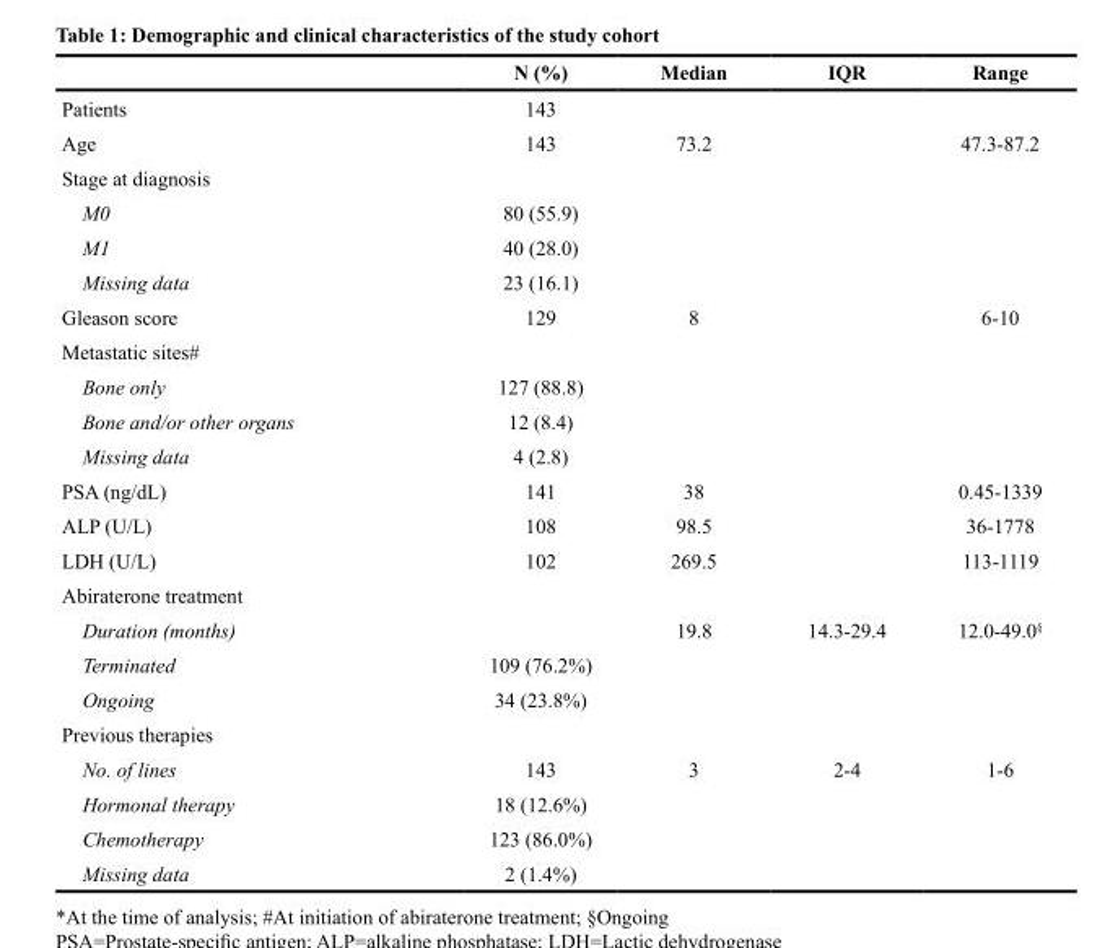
<table><thead><tr><td></td><td>N (%)</td><td>Median</td><td>IQR</td><td>Range</td></tr></thead><tbody><tr><td>Patients</td><td>143</td><td></td><td></td><td></td></tr><tr><td>Age</td><td>143</td><td>73.2</td><td></td><td>47.3-87.2</td></tr><tr><td colspan="5">Stage at diagnosis</td></tr><tr><td>M0</td><td>80 (55.9)</td><td></td><td></td><td></td></tr><tr><td>M1</td><td>40 (28.0)</td><td></td><td></td><td></td></tr><tr><td>Missing data</td><td>23 (16.1)</td><td></td><td></td><td></td></tr><tr><td>Gleason score</td><td>129</td><td>8</td><td></td><td>6-10</td></tr><tr><td colspan="5">Metastatic sites<sup>#</sup></td></tr><tr><td>Bone only</td><td>127 (88.8)</td><td></td><td></td><td></td></tr><tr><td>Bone and/or other organs</td><td>12 (8.4)</td><td></td><td></td><td></td></tr><tr><td>Missing data</td><td>4 (2.8)</td><td></td><td></td><td></td></tr><tr><td>PSA (ng/dL)</td><td>141</td><td>38</td><td></td><td>0.45-1339</td></tr><tr><td>ALP (U/L)</td><td>108</td><td>98.5</td><td></td><td>36-1778</td></tr><tr><td>LDH (U/L)</td><td>102</td><td>269.5</td><td></td><td>113-1119</td></tr><tr><td colspan="5">Abiraterone treatment</td></tr><tr><td>Duration (months)</td><td></td><td>19.8</td><td>14.3-29.4</td><td>12.0-49.0<sup>§</sup></td></tr><tr><td>Terminated</td><td>109 (76.2%)</td><td></td><td></td><td></td></tr><tr><td>Ongoing</td><td>34 (23.8%)</td><td></td><td></td><td></td></tr><tr><td colspan="5">Previous therapies</td></tr><tr><td>No. of lines</td><td>143</td><td>3</td><td>2-4</td><td>1-6</td></tr><tr><td>Hormonal therapy</td><td>18 (12.6%)</td><td></td><td></td><td></td></tr><tr><td>Chemotherapy</td><td>123 (86.0%)</td><td></td><td></td><td></td></tr><tr><td>Missing data</td><td>2 (1.4%)</td><td></td><td></td><td></td></tr></tbody></table>